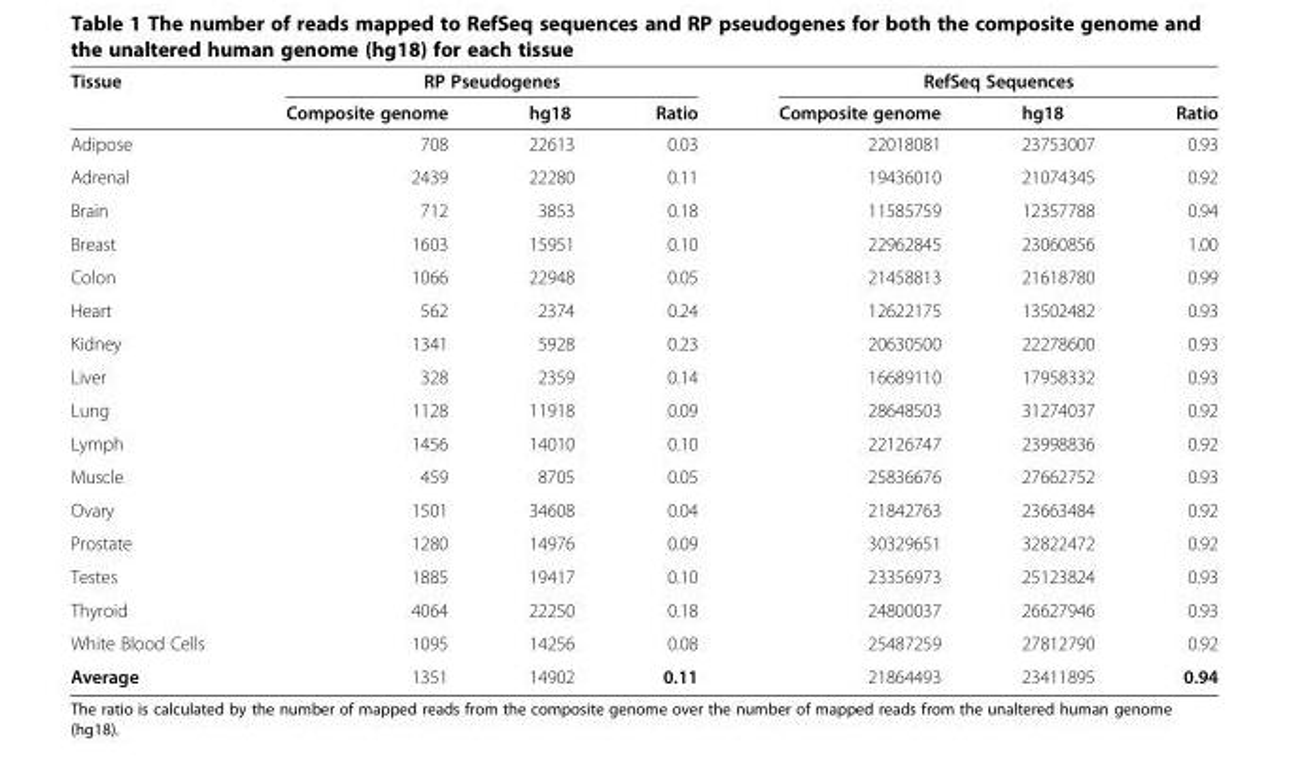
<table><thead><tr><td rowspan="2">Tissue</td><td colspan="3">RP Pseudogenes</td><td colspan="3">RefSeq Sequences</td></tr><tr><td>Composite genome</td><td>hg18</td><td>Ratio</td><td>Composite genome</td><td>hg18</td><td>Ratio</td></tr></thead><tbody><tr><td>Adipose</td><td>708</td><td>22613</td><td>0.03</td><td>22018081</td><td>23753007</td><td>0.93</td></tr><tr><td>Adrenal</td><td>2439</td><td>22280</td><td>0.11</td><td>19436010</td><td>21074345</td><td>0.92</td></tr><tr><td>Brain</td><td>712</td><td>3853</td><td>0.18</td><td>11585759</td><td>12357788</td><td>0.94</td></tr><tr><td>Breast</td><td>1603</td><td>15951</td><td>0.10</td><td>22962845</td><td>23060856</td><td>1.00</td></tr><tr><td>Colon</td><td>1066</td><td>22948</td><td>0.05</td><td>21458813</td><td>21618780</td><td>0.99</td></tr><tr><td>Heart</td><td>562</td><td>2374</td><td>0.24</td><td>12622175</td><td>13502482</td><td>0.93</td></tr><tr><td>Kidney</td><td>1341</td><td>5928</td><td>0.23</td><td>20630500</td><td>22278600</td><td>0.93</td></tr><tr><td>Liver</td><td>328</td><td>2359</td><td>0.14</td><td>16689110</td><td>17958332</td><td>0.93</td></tr><tr><td>Lung</td><td>1128</td><td>11918</td><td>0.09</td><td>28648503</td><td>31274037</td><td>0.92</td></tr><tr><td>Lymph</td><td>1456</td><td>14010</td><td>0.10</td><td>22126747</td><td>23998836</td><td>0.92</td></tr><tr><td>Muscle</td><td>459</td><td>8705</td><td>0.05</td><td>25836676</td><td>27662752</td><td>0.93</td></tr><tr><td>Ovary</td><td>1501</td><td>34608</td><td>0.04</td><td>21842763</td><td>23663484</td><td>0.92</td></tr><tr><td>Prostate</td><td>1280</td><td>14976</td><td>0.09</td><td>30329651</td><td>32822472</td><td>0.92</td></tr><tr><td>Testes</td><td>1885</td><td>19417</td><td>0.10</td><td>23356973</td><td>25123824</td><td>0.93</td></tr><tr><td>Thyroid</td><td>4064</td><td>22250</td><td>0.18</td><td>24800037</td><td>26627946</td><td>0.93</td></tr><tr><td>White Blood Cells</td><td>1095</td><td>14256</td><td>0.08</td><td>25487259</td><td>27812790</td><td>0.92</td></tr><tr><td>Average</td><td>1351</td><td>14902</td><td>0.11</td><td>21864493</td><td>23411895</td><td>0.94</td></tr></tbody></table>